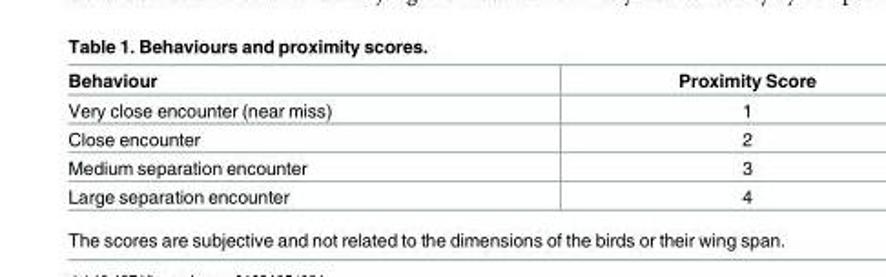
<table><thead><tr><td>Behaviour</td><td>Proximity Score</td></tr></thead><tbody><tr><td>Very close encounter (near miss)</td><td>1</td></tr><tr><td>Close encounter</td><td>2</td></tr><tr><td>Medium separation encounter</td><td>3</td></tr><tr><td>Large separation encounter</td><td>4</td></tr></tbody></table>